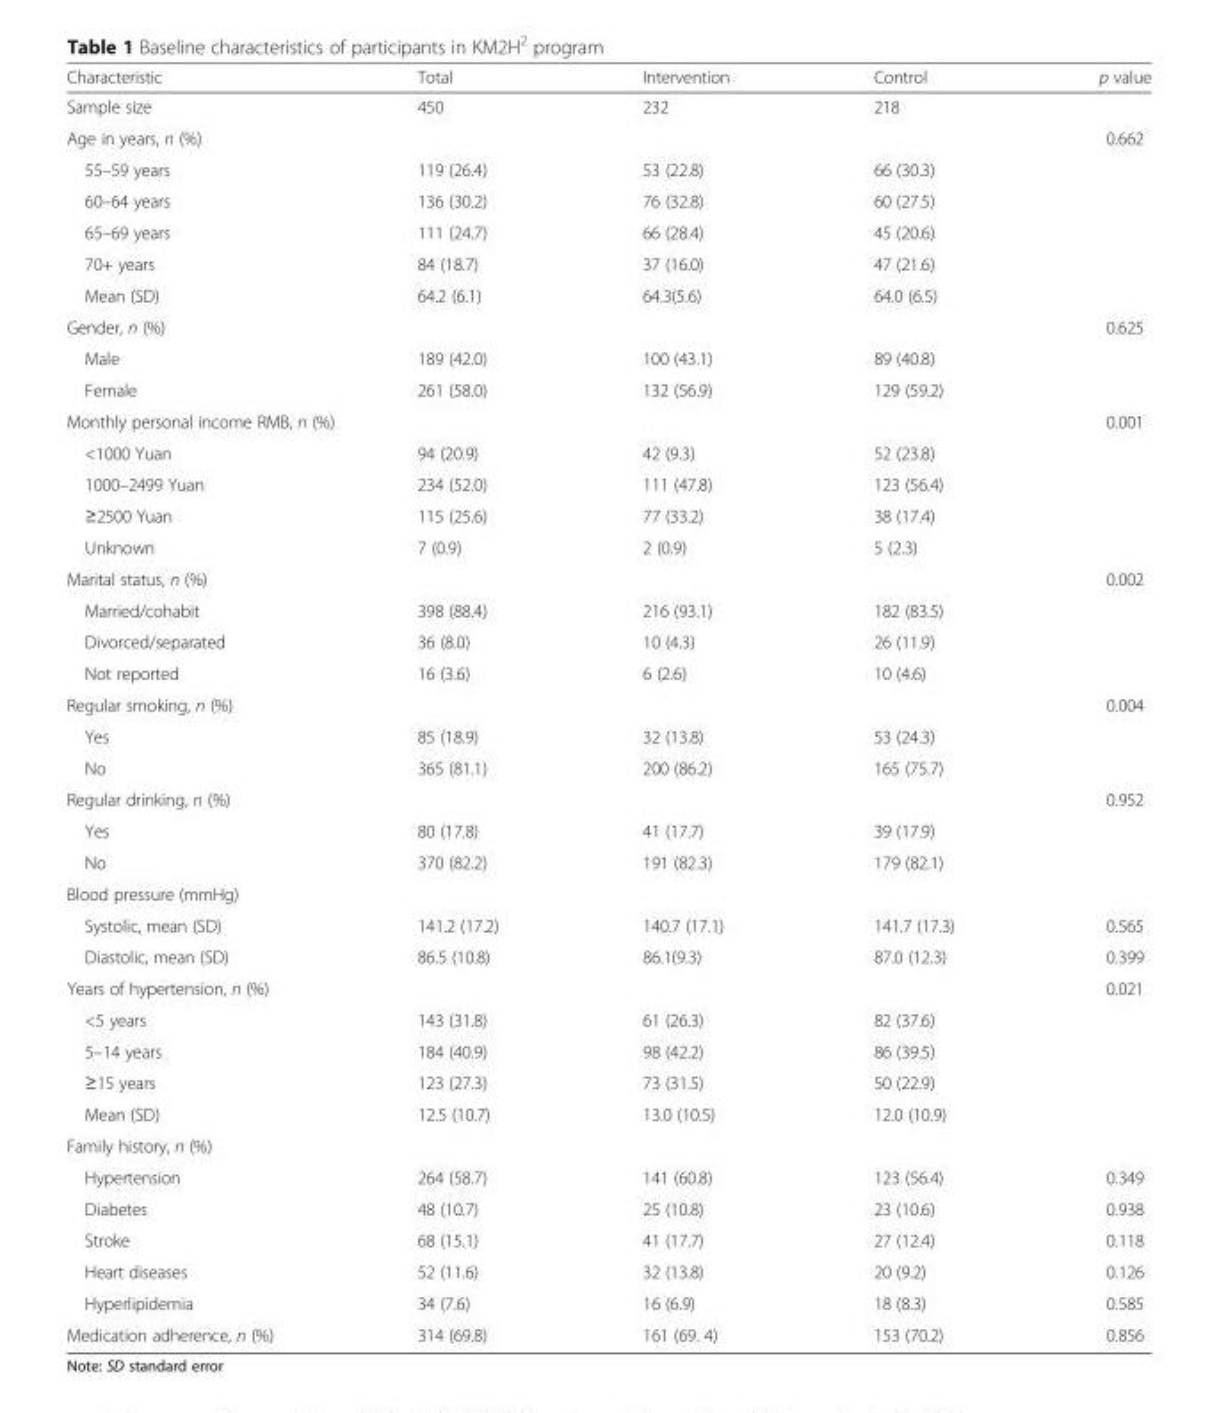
<table><thead><tr><td>Characteristic</td><td>Total</td><td>Intervention</td><td>Control</td><td>p value</td></tr></thead><tbody><tr><td>Sample size</td><td>450</td><td>232</td><td>218</td><td></td></tr><tr><td colspan="4">Age in years, n (%)</td><td>0.662</td></tr><tr><td>55–59 years</td><td>119 (26.4)</td><td>53 (22.8)</td><td>66 (30.3)</td><td></td></tr><tr><td>60–64 years</td><td>136 (30.2)</td><td>76 (32.8)</td><td>60 (27.5)</td><td></td></tr><tr><td>65–69 years</td><td>111 (24.7)</td><td>66 (28.4)</td><td>45 (20.6)</td><td></td></tr><tr><td>70+ years</td><td>84 (18.7)</td><td>37 (16.0)</td><td>47 (21.6)</td><td></td></tr><tr><td>Mean (SD)</td><td>64.2 (6.1)</td><td>64.3(5.6)</td><td>64.0 (6.5)</td><td></td></tr><tr><td colspan="4">Gender, n (%)</td><td>0.625</td></tr><tr><td>Male</td><td>189 (42.0)</td><td>100 (43.1)</td><td>89 (40.8)</td><td></td></tr><tr><td>Female</td><td>261 (58.0)</td><td>132 (56.9)</td><td>129 (59.2)</td><td></td></tr><tr><td colspan="4">Monthly personal income RMB, n (%)</td><td>0.001</td></tr><tr><td>&lt;1000 Yuan</td><td>94 (20.9)</td><td>42 (9.3)</td><td>52 (23.8)</td><td></td></tr><tr><td>1000–2499 Yuan</td><td>234 (52.0)</td><td>111 (47.8)</td><td>123 (56.4)</td><td></td></tr><tr><td>≥2500 Yuan</td><td>115 (25.6)</td><td>77 (33.2)</td><td>38 (17.4)</td><td></td></tr><tr><td>Unknown</td><td>7 (0.9)</td><td>2 (0.9)</td><td>5 (2.3)</td><td></td></tr><tr><td colspan="4">Marital status, n (%)</td><td>0.002</td></tr><tr><td>Married/cohabit</td><td>398 (88.4)</td><td>216 (93.1)</td><td>182 (83.5)</td><td></td></tr><tr><td>Divorced/separated</td><td>36 (8.0)</td><td>10 (4.3)</td><td>26 (11.9)</td><td></td></tr><tr><td>Not reported</td><td>16 (3.6)</td><td>6 (2.6)</td><td>10 (4.6)</td><td></td></tr><tr><td colspan="4">Regular smoking, n (%)</td><td>0.004</td></tr><tr><td>Yes</td><td>85 (18.9)</td><td>32 (13.8)</td><td>53 (24.3)</td><td></td></tr><tr><td>No</td><td>365 (81.1)</td><td>200 (86.2)</td><td>165 (75.7)</td><td></td></tr><tr><td colspan="4">Regular drinking, n (%)</td><td>0.952</td></tr><tr><td>Yes</td><td>80 (17.8)</td><td>41 (17.7)</td><td>39 (17.9)</td><td></td></tr><tr><td>No</td><td>370 (82.2)</td><td>191 (82.3)</td><td>179 (82.1)</td><td></td></tr><tr><td colspan="5">Blood pressure (mmHg)</td></tr><tr><td>Systolic, mean (SD)</td><td>141.2 (17.2)</td><td>140.7 (17.1)</td><td>141.7 (17.3)</td><td>0.565</td></tr><tr><td>Diastolic, mean (SD)</td><td>86.5 (10.8)</td><td>86.1(9.3)</td><td>87.0 (12.3)</td><td>0.399</td></tr><tr><td colspan="4">Years of hypertension, n (%)</td><td>0.021</td></tr><tr><td>&lt;5 years</td><td>143 (31.8)</td><td>61 (26.3)</td><td>82 (37.6)</td><td></td></tr><tr><td>5–14 years</td><td>184 (40.9)</td><td>98 (42.2)</td><td>86 (39.5)</td><td></td></tr><tr><td>≥15 years</td><td>123 (27.3)</td><td>73 (31.5)</td><td>50 (22.9)</td><td></td></tr><tr><td>Mean (SD)</td><td>12.5 (10.7)</td><td>13.0 (10.5)</td><td>12.0 (10.9)</td><td></td></tr><tr><td colspan="5">Family history, n (%)</td></tr><tr><td>Hypertension</td><td>264 (58.7)</td><td>141 (60.8)</td><td>123 (56.4)</td><td>0.349</td></tr><tr><td>Diabetes</td><td>48 (10.7)</td><td>25 (10.8)</td><td>23 (10.6)</td><td>0.938</td></tr><tr><td>Stroke</td><td>68 (15.1)</td><td>41 (17.7)</td><td>27 (12.4)</td><td>0.118</td></tr><tr><td>Heart diseases</td><td>52 (11.6)</td><td>32 (13.8)</td><td>20 (9.2)</td><td>0.126</td></tr><tr><td>Hyperlipidemia</td><td>34 (7.6)</td><td>16 (6.9)</td><td>18 (8.3)</td><td>0.585</td></tr><tr><td>Medication adherence, n (%)</td><td>314 (69.8)</td><td>161 (69. 4)</td><td>153 (70.2)</td><td>0.856</td></tr></tbody></table>